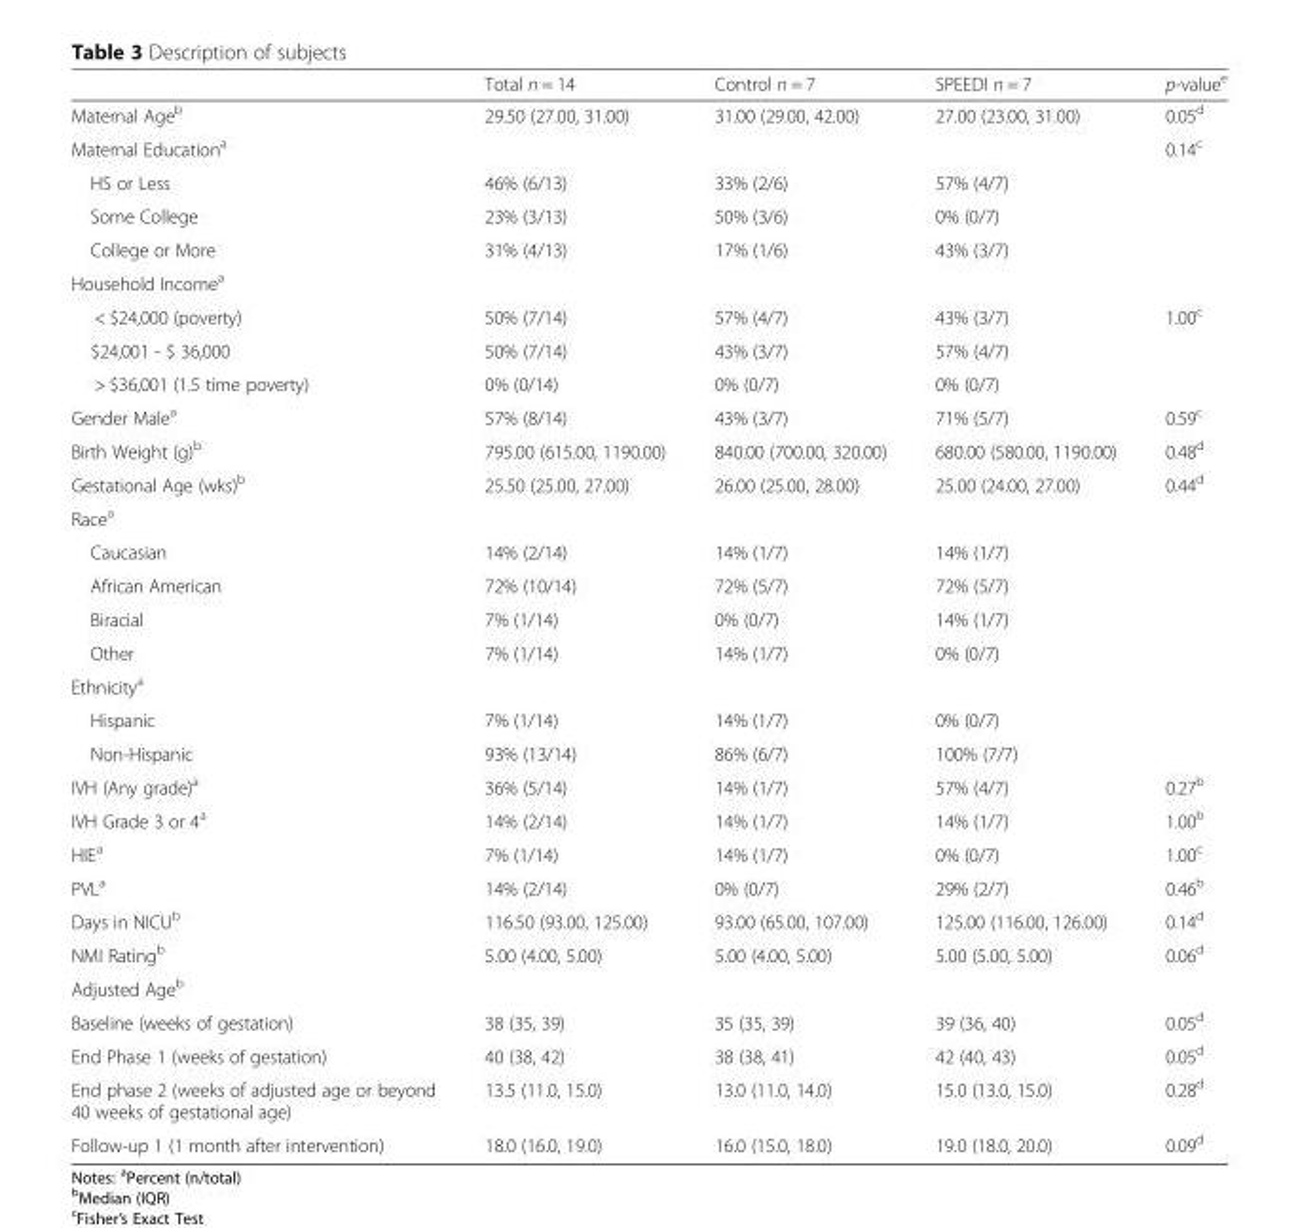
<table><thead><tr><td></td><td>Total n = 14</td><td>Control n = 7</td><td>SPEEDI n = 7</td><td>p-value<sup>e</sup></td></tr></thead><tbody><tr><td>Maternal Age<sup>b</sup></td><td>29.50 (27.00, 31.00)</td><td>31.00 (29.00, 42.00)</td><td>27.00 (23.00, 31.00)</td><td>0.05<sup>d</sup></td></tr><tr><td colspan="4">Maternal Education<sup>a</sup></td><td>0.14<sup>c</sup></td></tr><tr><td>HS or Less</td><td>46% (6/13)</td><td>33% (2/6)</td><td>57% (4/7)</td><td></td></tr><tr><td>Some College</td><td>23% (3/13)</td><td>50% (3/6)</td><td>0% (0/7)</td><td></td></tr><tr><td>College or More</td><td>31% (4/13)</td><td>17% (1/6)</td><td>43% (3/7)</td><td></td></tr><tr><td colspan="5">Household Income<sup>a</sup></td></tr><tr><td>&lt; $24,000 (poverty)</td><td>50% (7/14)</td><td>57% (4/7)</td><td>43% (3/7)</td><td>1.00<sup>c</sup></td></tr><tr><td>$24,001 - $ 36,000</td><td>50% (7/14)</td><td>43% (3/7)</td><td>57% (4/7)</td><td></td></tr><tr><td>&gt; $36,001 (1.5 time poverty)</td><td>0% (0/14)</td><td>0% (0/7)</td><td>0% (0/7)</td><td></td></tr><tr><td>Gender Male<sup>a</sup></td><td>57% (8/14)</td><td>43% (3/7)</td><td>71% (5/7)</td><td>0.59<sup>c</sup></td></tr><tr><td>Birth Weight (g)<sup>b</sup></td><td>795.00 (615.00, 1190.00)</td><td>840.00 (700.00, 320.00)</td><td>680.00 (580.00, 1190.00)</td><td>0.48<sup>d</sup></td></tr><tr><td>Gestational Age (wks)<sup>b</sup></td><td>25.50 (25.00, 27.00)</td><td>26.00 (25.00, 28.00)</td><td>25.00 (24.00, 27.00)</td><td>0.44<sup>d</sup></td></tr><tr><td colspan="5">Race<sup>a</sup></td></tr><tr><td>Caucasian</td><td>14% (2/14)</td><td>14% (1/7)</td><td>14% (1/7)</td><td></td></tr><tr><td>African American</td><td>72% (10/14)</td><td>72% (5/7)</td><td>72% (5/7)</td><td></td></tr><tr><td>Biracial</td><td>7% (1/14)</td><td>0% (0/7)</td><td>14% (1/7)</td><td></td></tr><tr><td>Other</td><td>7% (1/14)</td><td>14% (1/7)</td><td>0% (0/7)</td><td></td></tr><tr><td colspan="5">Ethnicity<sup>a</sup></td></tr><tr><td>Hispanic</td><td>7% (1/14)</td><td>14% (1/7)</td><td>0% (0/7)</td><td></td></tr><tr><td>Non-Hispanic</td><td>93% (13/14)</td><td>86% (6/7)</td><td>100% (7/7)</td><td></td></tr><tr><td>IVH (Any grade)<sup>a</sup></td><td>36% (5/14)</td><td>14% (1/7)</td><td>57% (4/7)</td><td>0.27<sup>b</sup></td></tr><tr><td>IVH Grade 3 or 4<sup>a</sup></td><td>14% (2/14)</td><td>14% (1/7)</td><td>14% (1/7)</td><td>1.00<sup>b</sup></td></tr><tr><td>HIE<sup>a</sup></td><td>7% (1/14)</td><td>14% (1/7)</td><td>0% (0/7)</td><td>1.00<sup>c</sup></td></tr><tr><td>PVL<sup>a</sup></td><td>14% (2/14)</td><td>0% (0/7)</td><td>29% (2/7)</td><td>0.46<sup>b</sup></td></tr><tr><td>Days in NICU<sup>b</sup></td><td>116.50 (93.00, 125.00)</td><td>93.00 (65.00, 107.00)</td><td>125.00 (116.00, 126.00)</td><td>0.14<sup>d</sup></td></tr><tr><td>NMI Rating<sup>b</sup></td><td>5.00 (4.00, 5.00)</td><td>5.00 (4.00, 5.00)</td><td>5.00 (5.00, 5.00)</td><td>0.06<sup>d</sup></td></tr><tr><td colspan="5">Adjusted Age<sup>b</sup></td></tr><tr><td>Baseline (weeks of gestation)</td><td>38 (35, 39)</td><td>35 (35, 39)</td><td>39 (36, 40)</td><td>0.05<sup>d</sup></td></tr><tr><td>End Phase 1 (weeks of gestation)</td><td>40 (38, 42)</td><td>38 (38, 41)</td><td>42 (40, 43)</td><td>0.05<sup>d</sup></td></tr><tr><td>End phase 2 (weeks of adjusted age or beyond 40 weeks of gestational age)</td><td>13.5 (11.0, 15.0)</td><td>13.0 (11.0, 14.0)</td><td>15.0 (13.0, 15.0)</td><td>0.28<sup>d</sup></td></tr><tr><td>Follow-up 1 (1 month after intervention)</td><td>18.0 (16.0, 19.0)</td><td>16.0 (15.0, 18.0)</td><td>19.0 (18.0, 20.0)</td><td>0.09<sup>d</sup></td></tr></tbody></table>